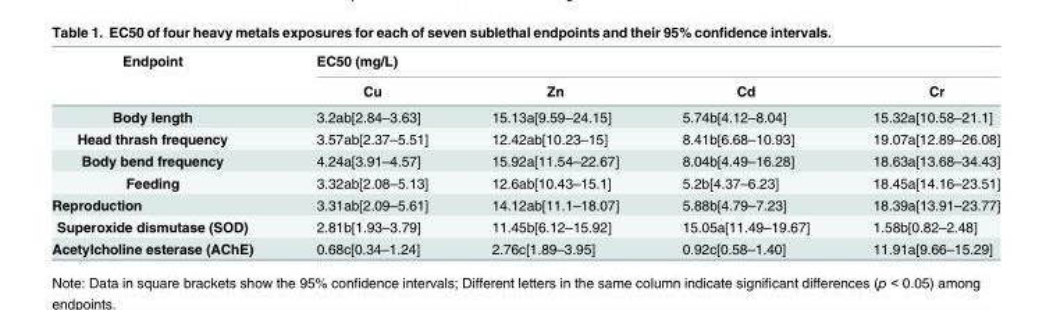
<table><thead><tr><td rowspan="2">Endpoint</td><td colspan="4">EC50 (mg/L)</td></tr><tr><td>Cu</td><td>Zn</td><td>Cd</td><td>Cr</td></tr></thead><tbody><tr><td>Body length</td><td>3.2ab[2.84–3.63]</td><td>15.13a[9.59–24.15]</td><td>5.74b[4.12–8.04]</td><td>15.32a[10.58–21.1]</td></tr><tr><td>Head thrash frequency</td><td>3.57ab[2.37–5.51]</td><td>12.42ab[10.23–15]</td><td>8.41b[6.68–10.93]</td><td>19.07a[12.89–26.08]</td></tr><tr><td>Body bend frequency</td><td>4.24a[3.91–4.57]</td><td>15.92a[11.54–22.67]</td><td>8.04b[4.49–16.28]</td><td>18.63a[13.68–34.43]</td></tr><tr><td>Feeding</td><td>3.32ab[2.08–5.13]</td><td>12.6ab[10.43–15.1]</td><td>5.2b[4.37–6.23]</td><td>18.45a[14.16–23.51]</td></tr><tr><td>Reproduction</td><td>3.31ab[2.09–5.61]</td><td>14.12ab[11.1–18.07]</td><td>5.88b[4.79–7.23]</td><td>18.39a[13.91–23.77]</td></tr><tr><td>Superoxide dismutase (SOD)</td><td>2.81b[1.93–3.79]</td><td>11.45b[6.12–15.92]</td><td>15.05a[11.49–19.67]</td><td>1.58b[0.82–2.48]</td></tr><tr><td>Acetylcholine esterase (AChE)</td><td>0.68c[0.34–1.24]</td><td>2.76c[1.89–3.95]</td><td>0.92c[0.58–1.40]</td><td>11.91a[9.66–15.29]</td></tr></tbody></table>